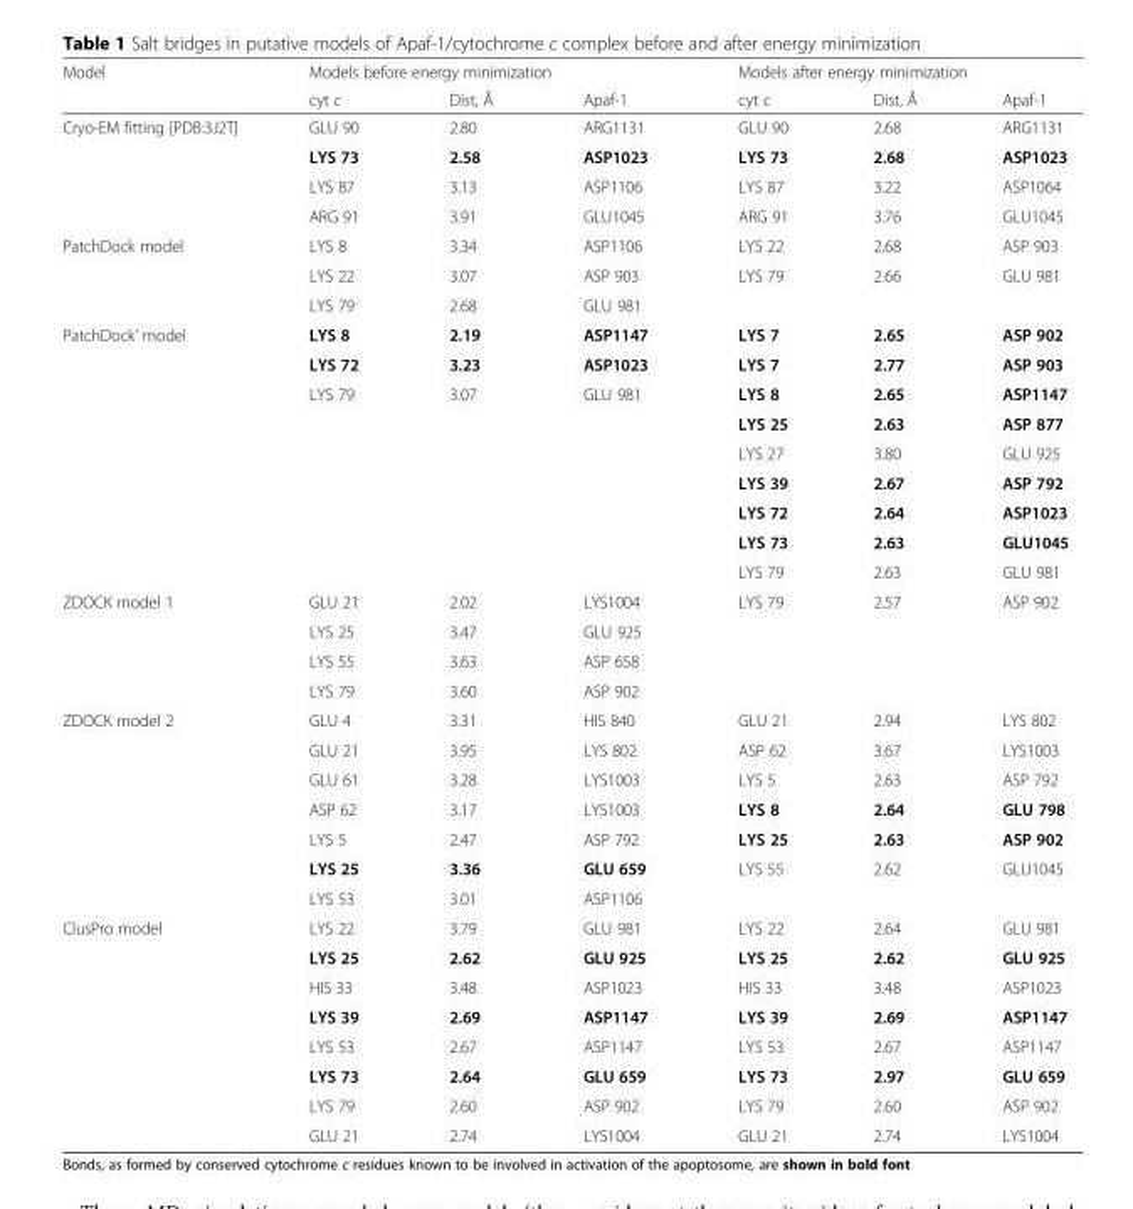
<table><thead><tr><td rowspan="2">Model</td><td colspan="3">Models before energy minimization</td><td colspan="3">Models after energy minimization</td></tr><tr><td>cyt c</td><td>Dist, Å</td><td>Apaf-1</td><td>cyt c</td><td>Dist, Å</td><td>Apaf-1</td></tr></thead><tbody><tr><td rowspan="4">Cryo-EM fitting [PDB:3J2T]</td><td>GLU 90</td><td>2.80</td><td>ARG1131</td><td>GLU 90</td><td>2.68</td><td>ARG1131</td></tr><tr><td>LYS 73</td><td>2.58</td><td>ASP1023</td><td>LYS 73</td><td>2.68</td><td>ASP1023</td></tr><tr><td>LYS 87</td><td>3.13</td><td>ASP1106</td><td>LYS 87</td><td>3.22</td><td>ASP1064</td></tr><tr><td>ARG 91</td><td>3.91</td><td>GLU1045</td><td>ARG 91</td><td>3.76</td><td>GLU1045</td></tr><tr><td rowspan="3">PatchDock model</td><td>LYS 8</td><td>3.34</td><td>ASP1106</td><td>LYS 22</td><td>2.68</td><td>ASP 903</td></tr><tr><td>LYS 22</td><td>3.07</td><td>ASP 903</td><td>LYS 79</td><td>2.66</td><td>GLU 981</td></tr><tr><td>LYS 79</td><td>2.68</td><td>GLU 981</td><td></td><td></td><td></td></tr><tr><td rowspan="9">PatchDock’ model</td><td>LYS 8</td><td>2.19</td><td>ASP1147</td><td>LYS 7</td><td>2.65</td><td>ASP 902</td></tr><tr><td>LYS 72</td><td>3.23</td><td>ASP1023</td><td>LYS 7</td><td>2.77</td><td>ASP 903</td></tr><tr><td>LYS 79</td><td>3.07</td><td>GLU 981</td><td>LYS 8</td><td>2.65</td><td>ASP1147</td></tr><tr><td></td><td></td><td></td><td>LYS 25</td><td>2.63</td><td>ASP 877</td></tr><tr><td></td><td></td><td></td><td>LYS 27</td><td>3.80</td><td>GLU 925</td></tr><tr><td></td><td></td><td></td><td>LYS 39</td><td>2.67</td><td>ASP 792</td></tr><tr><td></td><td></td><td></td><td>LYS 72</td><td>2.64</td><td>ASP1023</td></tr><tr><td></td><td></td><td></td><td>LYS 73</td><td>2.63</td><td>GLU1045</td></tr><tr><td></td><td></td><td></td><td>LYS 79</td><td>2.63</td><td>GLU 981</td></tr><tr><td rowspan="4">ZDOCK model 1</td><td>GLU 21</td><td>2.02</td><td>LYS1004</td><td>LYS 79</td><td>2.57</td><td>ASP 902</td></tr><tr><td>LYS 25</td><td>3.47</td><td>GLU 925</td><td></td><td></td><td></td></tr><tr><td>LYS 55</td><td>3.63</td><td>ASP 658</td><td></td><td></td><td></td></tr><tr><td>LYS 79</td><td>3.60</td><td>ASP 902</td><td></td><td></td><td></td></tr><tr><td rowspan="7">ZDOCK model 2</td><td>GLU 4</td><td>3.31</td><td>HIS 840</td><td>GLU 21</td><td>2.94</td><td>LYS 802</td></tr><tr><td>GLU 21</td><td>3.95</td><td>LYS 802</td><td>ASP 62</td><td>3.67</td><td>LYS1003</td></tr><tr><td>GLU 61</td><td>3.28</td><td>LYS1003</td><td>LYS 5</td><td>2.63</td><td>ASP 792</td></tr><tr><td>ASP 62</td><td>3.17</td><td>LYS1003</td><td>LYS 8</td><td>2.64</td><td>GLU 798</td></tr><tr><td>LYS 5</td><td>2.47</td><td>ASP 792</td><td>LYS 25</td><td>2.63</td><td>ASP 902</td></tr><tr><td>LYS 25</td><td>3.36</td><td>GLU 659</td><td>LYS 55</td><td>2.62</td><td>GLU1045</td></tr><tr><td>LYS 53</td><td>3.01</td><td>ASP1106</td><td></td><td></td><td></td></tr><tr><td rowspan="8">ClusPro model</td><td>LYS 22</td><td>3.79</td><td>GLU 981</td><td>LYS 22</td><td>2.64</td><td>GLU 981</td></tr><tr><td>LYS 25</td><td>2.62</td><td>GLU 925</td><td>LYS 25</td><td>2.62</td><td>GLU 925</td></tr><tr><td>HIS 33</td><td>3.48</td><td>ASP1023</td><td>HIS 33</td><td>3.48</td><td>ASP1023</td></tr><tr><td>LYS 39</td><td>2.69</td><td>ASP1147</td><td>LYS 39</td><td>2.69</td><td>ASP1147</td></tr><tr><td>LYS 53</td><td>2.67</td><td>ASP1147</td><td>LYS 53</td><td>2.67</td><td>ASP1147</td></tr><tr><td>LYS 73</td><td>2.64</td><td>GLU 659</td><td>LYS 73</td><td>2.97</td><td>GLU 659</td></tr><tr><td>LYS 79</td><td>2.60</td><td>ASP 902</td><td>LYS 79</td><td>2.60</td><td>ASP 902</td></tr><tr><td>GLU 21</td><td>2.74</td><td>LYS1004</td><td>GLU 21</td><td>2.74</td><td>LYS1004</td></tr></tbody></table>